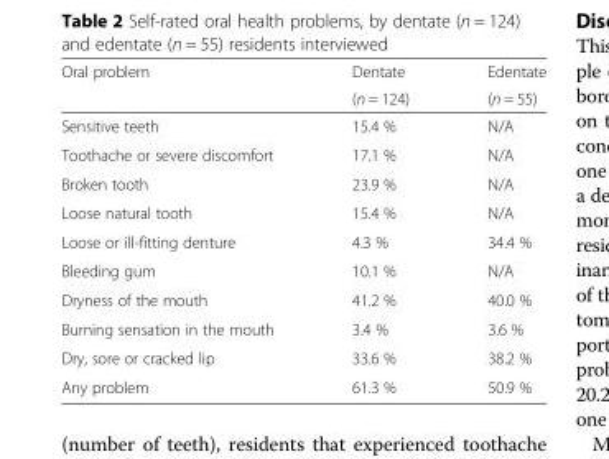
<table><thead><tr><td rowspan="2">Oral problem</td><td rowspan="2">Dentate (n = 124)</td><td rowspan="2">Edentate (n = 55)</td></tr><tr></tr></thead><tbody><tr><td>Sensitive teeth</td><td>15.4 %</td><td>N/A</td></tr><tr><td>Toothache or severe discomfort</td><td>17.1 %</td><td>N/A</td></tr><tr><td>Broken tooth</td><td>23.9 %</td><td>N/A</td></tr><tr><td>Loose natural tooth</td><td>15.4 %</td><td>N/A</td></tr><tr><td>Loose or ill-fitting denture</td><td>4.3 %</td><td>34.4 %</td></tr><tr><td>Bleeding gum</td><td>10.1 %</td><td>N/A</td></tr><tr><td>Dryness of the mouth</td><td>41.2 %</td><td>40.0 %</td></tr><tr><td>Burning sensation in the mouth</td><td>3.4 %</td><td>3.6 %</td></tr><tr><td>Dry, sore or cracked lip</td><td>33.6 %</td><td>38.2 %</td></tr><tr><td>Any problem</td><td>61.3 %</td><td>50.9 %</td></tr></tbody></table>